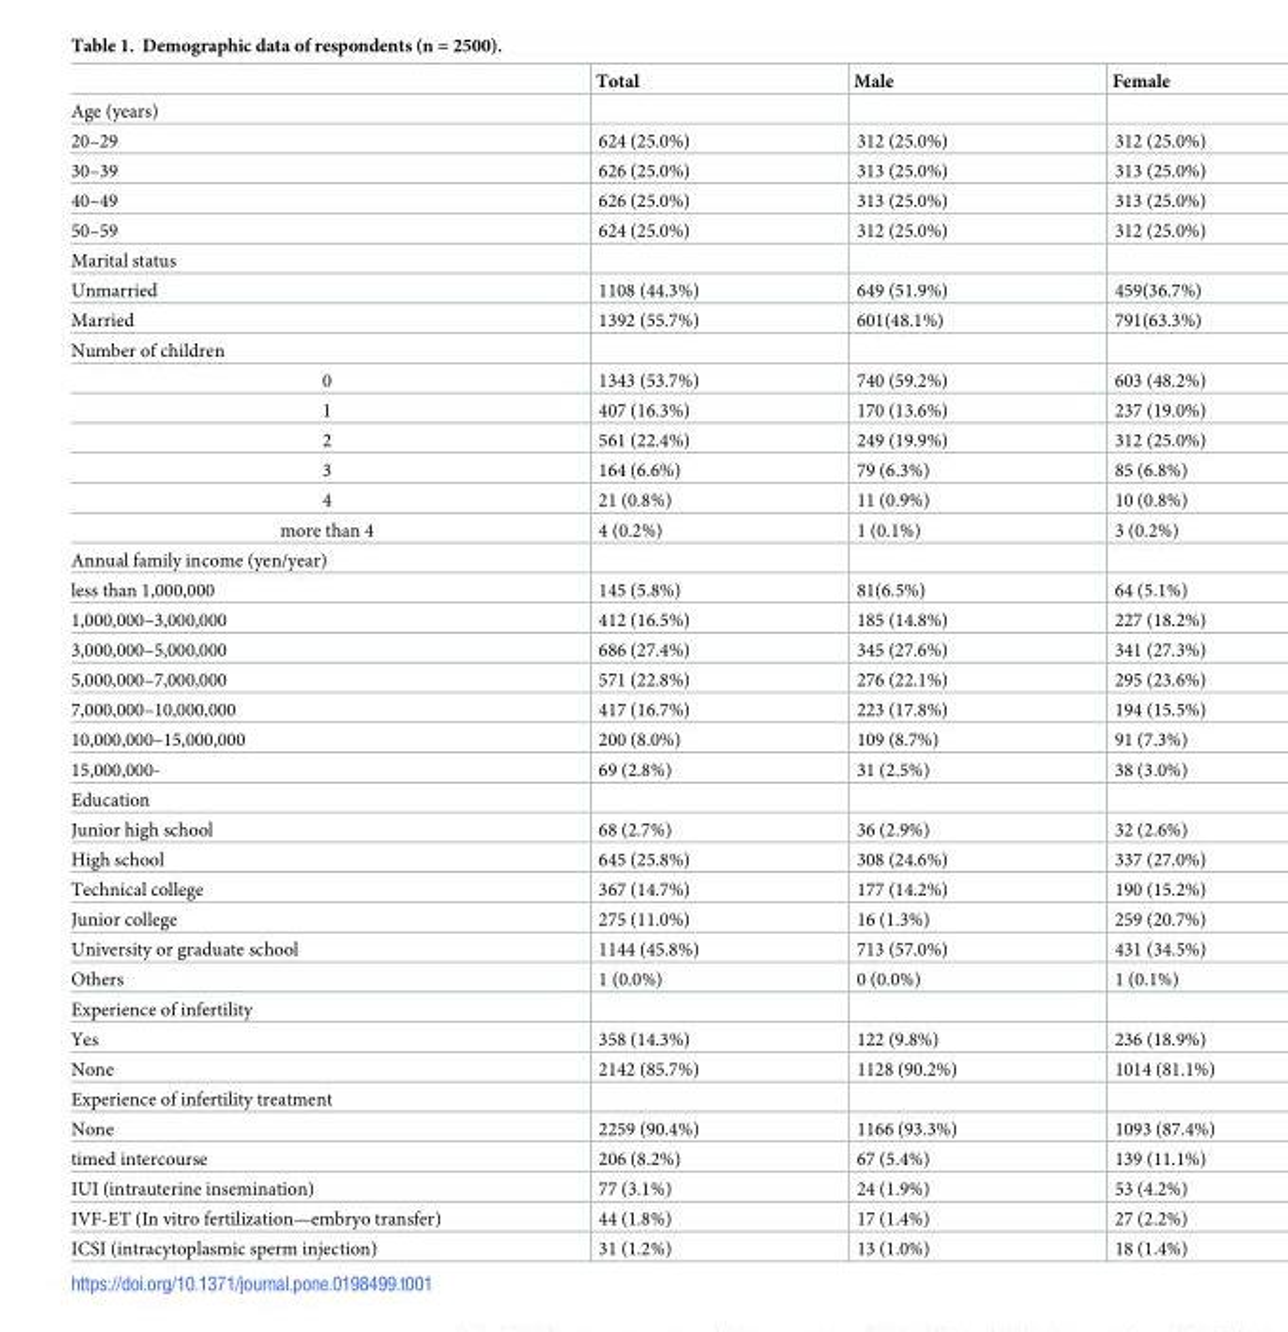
<table><thead><tr><td></td><td>Total</td><td>Male</td><td>Female</td></tr></thead><tbody><tr><td colspan="4">Age (years)</td></tr><tr><td>20–29</td><td>624 (25.0%)</td><td>312 (25.0%)</td><td>312 (25.0%)</td></tr><tr><td>30–39</td><td>626 (25.0%)</td><td>313 (25.0%)</td><td>313 (25.0%)</td></tr><tr><td>40–49</td><td>626 (25.0%)</td><td>313 (25.0%)</td><td>313 (25.0%)</td></tr><tr><td>50–59</td><td>624 (25.0%)</td><td>312 (25.0%)</td><td>312 (25.0%)</td></tr><tr><td colspan="4">Marital status</td></tr><tr><td>Unmarried</td><td>1108 (44.3%)</td><td>649 (51.9%)</td><td>459(36.7%)</td></tr><tr><td>Married</td><td>1392 (55.7%)</td><td>601(48.1%)</td><td>791(63.3%)</td></tr><tr><td colspan="4">Number of children</td></tr><tr><td>0</td><td>1343 (53.7%)</td><td>740 (59.2%)</td><td>603 (48.2%)</td></tr><tr><td>1</td><td>407 (16.3%)</td><td>170 (13.6%)</td><td>237 (19.0%)</td></tr><tr><td>2</td><td>561 (22.4%)</td><td>249 (19.9%)</td><td>312 (25.0%)</td></tr><tr><td>3</td><td>164 (6.6%)</td><td>79 (6.3%)</td><td>85 (6.8%)</td></tr><tr><td>4</td><td>21 (0.8%)</td><td>11 (0.9%)</td><td>10 (0.8%)</td></tr><tr><td>more than 4</td><td>4 (0.2%)</td><td>1 (0.1%)</td><td>3 (0.2%)</td></tr><tr><td colspan="4">Annual family income (yen/year)</td></tr><tr><td>less than 1,000,000</td><td>145 (5.8%)</td><td>81(6.5%)</td><td>64 (5.1%)</td></tr><tr><td>1,000,000–3,000,000</td><td>412 (16.5%)</td><td>185 (14.8%)</td><td>227 (18.2%)</td></tr><tr><td>3,000,000–5,000,000</td><td>686 (27.4%)</td><td>345 (27.6%)</td><td>341 (27.3%)</td></tr><tr><td>5,000,000–7,000,000</td><td>571 (22.8%)</td><td>276 (22.1%)</td><td>295 (23.6%)</td></tr><tr><td>7,000,000–10,000,000</td><td>417 (16.7%)</td><td>223 (17.8%)</td><td>194 (15.5%)</td></tr><tr><td>10,000,000–15,000,000</td><td>200 (8.0%)</td><td>109 (8.7%)</td><td>91 (7.3%)</td></tr><tr><td>15,000,000-</td><td>69 (2.8%)</td><td>31 (2.5%)</td><td>38 (3.0%)</td></tr><tr><td colspan="4">Education</td></tr><tr><td>Junior high school</td><td>68 (2.7%)</td><td>36 (2.9%)</td><td>32 (2.6%)</td></tr><tr><td>High school</td><td>645 (25.8%)</td><td>308 (24.6%)</td><td>337 (27.0%)</td></tr><tr><td>Technical college</td><td>367 (14.7%)</td><td>177 (14.2%)</td><td>190 (15.2%)</td></tr><tr><td>Junior college</td><td>275 (11.0%)</td><td>16 (1.3%)</td><td>259 (20.7%)</td></tr><tr><td>University or graduate school</td><td>1144 (45.8%)</td><td>713 (57.0%)</td><td>431 (34.5%)</td></tr><tr><td>Others</td><td>1 (0.0%)</td><td>0 (0.0%)</td><td>1 (0.1%)</td></tr><tr><td colspan="4">Experience of infertility</td></tr><tr><td>Yes</td><td>358 (14.3%)</td><td>122 (9.8%)</td><td>236 (18.9%)</td></tr><tr><td>None</td><td>2142 (85.7%)</td><td>1128 (90.2%)</td><td>1014 (81.1%)</td></tr><tr><td colspan="4">Experience of infertility treatment</td></tr><tr><td>None</td><td>2259 (90.4%)</td><td>1166 (93.3%)</td><td>1093 (87.4%)</td></tr><tr><td>timed intercourse</td><td>206 (8.2%)</td><td>67 (5.4%)</td><td>139 (11.1%)</td></tr><tr><td>IUI (intrauterine insemination)</td><td>77 (3.1%)</td><td>24 (1.9%)</td><td>53 (4.2%)</td></tr><tr><td>IVF-ET (In vitro fertilization—embryo transfer)</td><td>44 (1.8%)</td><td>17 (1.4%)</td><td>27 (2.2%)</td></tr><tr><td>ICSI (intracytoplasmic sperm injection)</td><td>31 (1.2%)</td><td>13 (1.0%)</td><td>18 (1.4%)</td></tr></tbody></table>